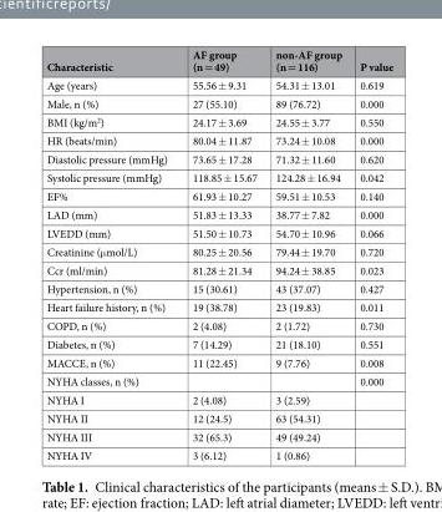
<table><thead><tr><td>Characteristic</td><td>AF group (n = 49)</td><td>non-AF group (n = 116)</td><td>P value</td></tr></thead><tbody><tr><td>Age (years)</td><td>55.56 ± 9.31</td><td>54.31 ± 13.01</td><td>0.619</td></tr><tr><td>Male, n (%)</td><td>27 (55.10)</td><td>89 (76.72)</td><td>0.000</td></tr><tr><td>BMI (kg/m<sup>2</sup>)</td><td>24.17 ± 3.69</td><td>24.55 ± 3.77</td><td>0.550</td></tr><tr><td>HR (beats/min)</td><td>80.04 ± 11.87</td><td>73.24 ± 10.08</td><td>0.000</td></tr><tr><td>Diastolic pressure (mmHg)</td><td>73.65 ± 17.28</td><td>71.32 ± 11.60</td><td>0.620</td></tr><tr><td>Systolic pressure (mmHg)</td><td>118.85 ± 15.67</td><td>124.28 ± 16.94</td><td>0.042</td></tr><tr><td>EF%</td><td>61.93 ± 10.27</td><td>59.51 ± 10.53</td><td>0.140</td></tr><tr><td>LAD (mm)</td><td>51.83 ± 13.33</td><td>38.77 ± 7.82</td><td>0.000</td></tr><tr><td>LVEDD (mm)</td><td>51.50 ± 10.73</td><td>54.70 ± 10.96</td><td>0.066</td></tr><tr><td>Creatinine (μmol/L)</td><td>80.25 ± 20.56</td><td>79.44 ± 19.70</td><td>0.720</td></tr><tr><td>Ccr (ml/min)</td><td>81.28 ± 21.34</td><td>94.24 ± 38.85</td><td>0.023</td></tr><tr><td>Hypertension, n (%)</td><td>15 (30.61)</td><td>43 (37.07)</td><td>0.427</td></tr><tr><td>Heart failure history, n (%)</td><td>19 (38.78)</td><td>23 (19.83)</td><td>0.011</td></tr><tr><td>COPD, n (%)</td><td>2 (4.08)</td><td>2 (1.72)</td><td>0.730</td></tr><tr><td>Diabetes, n (%)</td><td>7 (14.29)</td><td>21 (18.10)</td><td>0.551</td></tr><tr><td>MACCE, n (%)</td><td>11 (22.45)</td><td>9 (7.76)</td><td>0.008</td></tr><tr><td>NYHA classes, n (%)</td><td></td><td></td><td>0.000</td></tr><tr><td>NYHA I</td><td>2 (4.08)</td><td>3 (2.59)</td><td></td></tr><tr><td>NYHA II</td><td>12 (24.5)</td><td>63 (54.31)</td><td></td></tr><tr><td>NYHA III</td><td>32 (65.3)</td><td>49 (49.24)</td><td></td></tr><tr><td>NYHA IV</td><td>3 (6.12)</td><td>1 (0.86)</td><td></td></tr></tbody></table>